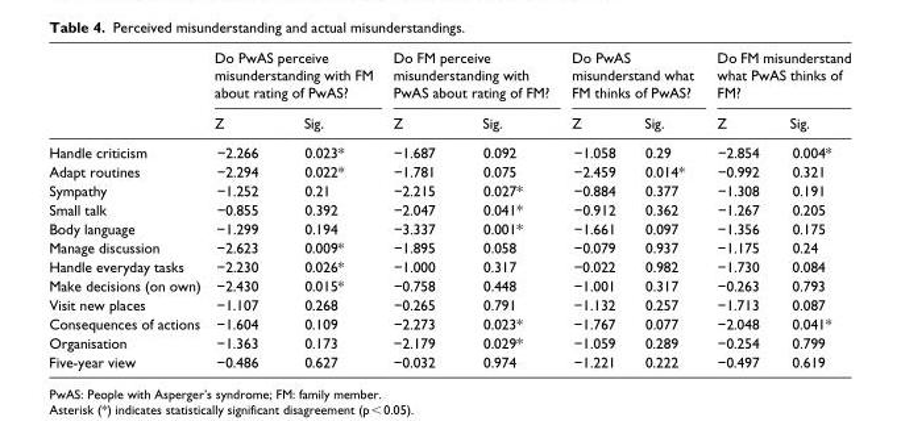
<table><thead><tr><td rowspan="2"></td><td colspan="2">Do PwAS perceive misunderstanding with FM about rating of PwAS?</td><td colspan="2">Do FM perceive misunderstanding with PwAS about rating of FM?</td><td colspan="2">Do PwAS misunderstand what FM thinks of PwAS?</td><td colspan="2">Do FM misunderstand what PwAS thinks of FM?</td></tr><tr><td>Z</td><td>Sig.</td><td>Z</td><td>Sig.</td><td>Z</td><td>Sig.</td><td>Z</td><td>Sig.</td></tr></thead><tbody><tr><td>Handle criticism</td><td>−2.266</td><td>0.023*</td><td>−1.687</td><td>0.092</td><td>−1.058</td><td>0.29</td><td>−2.854</td><td>0.004*</td></tr><tr><td>Adapt routines</td><td>−2.294</td><td>0.022*</td><td>−1.781</td><td>0.075</td><td>−2.459</td><td>0.014*</td><td>−0.992</td><td>0.321</td></tr><tr><td>Sympathy</td><td>−1.252</td><td>0.21</td><td>−2.215</td><td>0.027*</td><td>−0.884</td><td>0.377</td><td>−1.308</td><td>0.191</td></tr><tr><td>Small talk</td><td>−0.855</td><td>0.392</td><td>−2.047</td><td>0.041*</td><td>−0.912</td><td>0.362</td><td>−1.267</td><td>0.205</td></tr><tr><td>Body language</td><td>−1.299</td><td>0.194</td><td>−3.337</td><td>0.001*</td><td>−1.661</td><td>0.097</td><td>−1.356</td><td>0.175</td></tr><tr><td>Manage discussion</td><td>−2.623</td><td>0.009*</td><td>−1.895</td><td>0.058</td><td>−0.079</td><td>0.937</td><td>−1.175</td><td>0.24</td></tr><tr><td>Handle everyday tasks</td><td>−2.230</td><td>0.026*</td><td>−1.000</td><td>0.317</td><td>−0.022</td><td>0.982</td><td>−1.730</td><td>0.084</td></tr><tr><td>Make decisions (on own)</td><td>−2.430</td><td>0.015*</td><td>−0.758</td><td>0.448</td><td>−1.001</td><td>0.317</td><td>−0.263</td><td>0.793</td></tr><tr><td>Visit new places</td><td>−1.107</td><td>0.268</td><td>−0.265</td><td>0.791</td><td>−1.132</td><td>0.257</td><td>−1.713</td><td>0.087</td></tr><tr><td>Consequences of actions</td><td>−1.604</td><td>0.109</td><td>−2.273</td><td>0.023*</td><td>−1.767</td><td>0.077</td><td>−2.048</td><td>0.041*</td></tr><tr><td>Organisation</td><td>−1.363</td><td>0.173</td><td>−2.179</td><td>0.029*</td><td>−1.059</td><td>0.289</td><td>−0.254</td><td>0.799</td></tr><tr><td>Five-year view</td><td>−0.486</td><td>0.627</td><td>−0.032</td><td>0.974</td><td>−1.221</td><td>0.222</td><td>−0.497</td><td>0.619</td></tr></tbody></table>